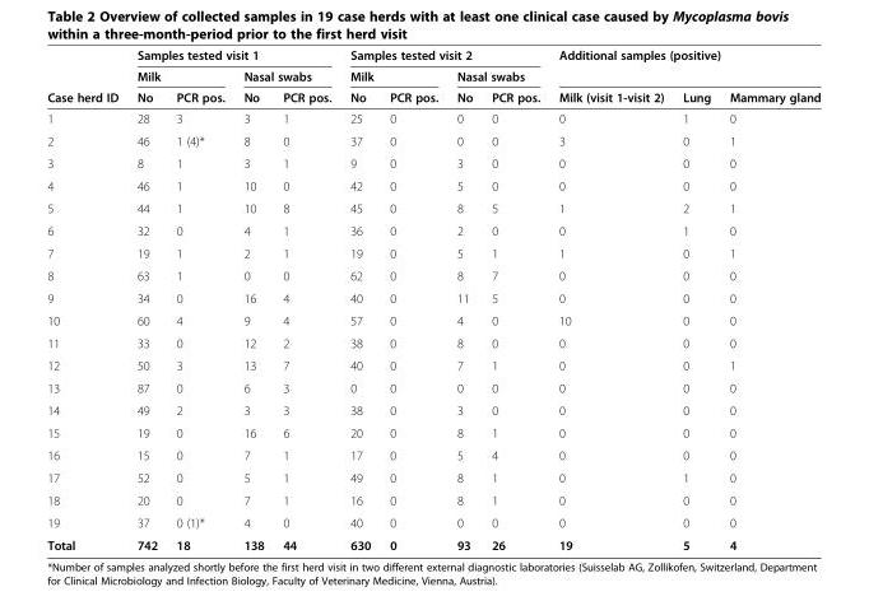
<table><thead><tr><td rowspan="3">Case herd ID</td><td colspan="4">Samples tested visit 1</td><td colspan="4">Samples tested visit 2</td><td rowspan="2" colspan="3">Additional samples (positive)</td></tr><tr><td colspan="2">Milk</td><td colspan="2">Nasal swabs</td><td colspan="2">Milk</td><td colspan="2">Nasal swabs</td></tr><tr><td>No</td><td>PCR pos.</td><td>No</td><td>PCR pos.</td><td>No</td><td>PCR pos.</td><td>No</td><td>PCR pos.</td><td>Milk (visit 1-visit 2)</td><td>Lung</td><td>Mammary gland</td></tr></thead><tbody><tr><td>1</td><td>28</td><td>3</td><td>3</td><td>1</td><td>25</td><td>0</td><td>0</td><td>0</td><td>0</td><td>1</td><td>0</td></tr><tr><td>2</td><td>46</td><td>1 (4)*</td><td>8</td><td>0</td><td>37</td><td>0</td><td>0</td><td>0</td><td>3</td><td>0</td><td>1</td></tr><tr><td>3</td><td>8</td><td>1</td><td>3</td><td>1</td><td>9</td><td>0</td><td>3</td><td>0</td><td>0</td><td>0</td><td>0</td></tr><tr><td>4</td><td>46</td><td>1</td><td>10</td><td>0</td><td>42</td><td>0</td><td>5</td><td>0</td><td>0</td><td>0</td><td>0</td></tr><tr><td>5</td><td>44</td><td>1</td><td>10</td><td>8</td><td>45</td><td>0</td><td>8</td><td>5</td><td>1</td><td>2</td><td>1</td></tr><tr><td>6</td><td>32</td><td>0</td><td>4</td><td>1</td><td>36</td><td>0</td><td>2</td><td>0</td><td>0</td><td>1</td><td>0</td></tr><tr><td>7</td><td>19</td><td>1</td><td>2</td><td>1</td><td>19</td><td>0</td><td>5</td><td>1</td><td>1</td><td>0</td><td>1</td></tr><tr><td>8</td><td>63</td><td>1</td><td>0</td><td>0</td><td>62</td><td>0</td><td>8</td><td>7</td><td>0</td><td>0</td><td>0</td></tr><tr><td>9</td><td>34</td><td>0</td><td>16</td><td>4</td><td>40</td><td>0</td><td>11</td><td>5</td><td>0</td><td>0</td><td>0</td></tr><tr><td>10</td><td>60</td><td>4</td><td>9</td><td>4</td><td>57</td><td>0</td><td>4</td><td>0</td><td>10</td><td>0</td><td>0</td></tr><tr><td>11</td><td>33</td><td>0</td><td>12</td><td>2</td><td>38</td><td>0</td><td>8</td><td>0</td><td>0</td><td>0</td><td>0</td></tr><tr><td>12</td><td>50</td><td>3</td><td>13</td><td>7</td><td>40</td><td>0</td><td>7</td><td>1</td><td>0</td><td>0</td><td>1</td></tr><tr><td>13</td><td>87</td><td>0</td><td>6</td><td>3</td><td>0</td><td>0</td><td>0</td><td>0</td><td>0</td><td>0</td><td>0</td></tr><tr><td>14</td><td>49</td><td>2</td><td>3</td><td>3</td><td>38</td><td>0</td><td>3</td><td>0</td><td>0</td><td>0</td><td>0</td></tr><tr><td>15</td><td>19</td><td>0</td><td>16</td><td>6</td><td>20</td><td>0</td><td>8</td><td>1</td><td>0</td><td>0</td><td>0</td></tr><tr><td>16</td><td>15</td><td>0</td><td>7</td><td>1</td><td>17</td><td>0</td><td>5</td><td>4</td><td>0</td><td>0</td><td>0</td></tr><tr><td>17</td><td>52</td><td>0</td><td>5</td><td>1</td><td>49</td><td>0</td><td>8</td><td>1</td><td>0</td><td>1</td><td>0</td></tr><tr><td>18</td><td>20</td><td>0</td><td>7</td><td>1</td><td>16</td><td>0</td><td>8</td><td>1</td><td>0</td><td>0</td><td>0</td></tr><tr><td>19</td><td>37</td><td>0 (1)*</td><td>4</td><td>0</td><td>40</td><td>0</td><td>0</td><td>0</td><td>0</td><td>0</td><td>0</td></tr><tr><td>Total</td><td>742</td><td>18</td><td>138</td><td>44</td><td>630</td><td>0</td><td>93</td><td>26</td><td>19</td><td>5</td><td>4</td></tr></tbody></table>